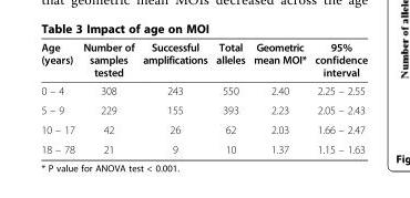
<table><thead><tr><td>Age (years)</td><td>Number of samples tested</td><td>Successful amplifications</td><td>Total alleles</td><td>Geometric mean MOI*</td><td>95% confidence interval</td></tr></thead><tbody><tr><td>0 – 4</td><td>308</td><td>243</td><td>550</td><td>2.40</td><td>2.25 – 2.55</td></tr><tr><td>5 – 9</td><td>229</td><td>155</td><td>393</td><td>2.23</td><td>2.05 – 2.43</td></tr><tr><td>10 – 17</td><td>42</td><td>26</td><td>62</td><td>2.03</td><td>1.66 – 2.47</td></tr><tr><td>18 – 78</td><td>21</td><td>9</td><td>10</td><td>1.37</td><td>1.15 – 1.63</td></tr></tbody></table>